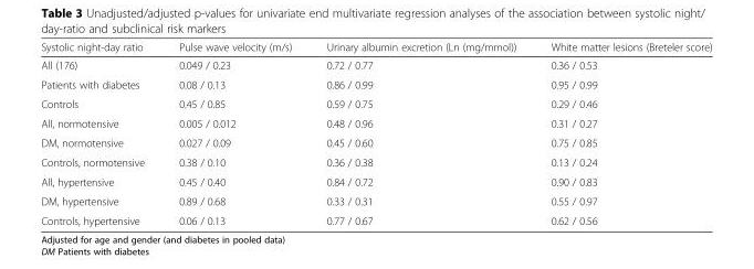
<table><thead><tr><td>Systolic night-day ratio</td><td>Pulse wave velocity (m/s)</td><td>Urinary albumin excretion (Ln (mg/mmol))</td><td>White matter lesions (Breteler score)</td></tr></thead><tbody><tr><td>All (176)</td><td>0.049 / 0.23</td><td>0.72 / 0.77</td><td>0.36 / 0.53</td></tr><tr><td>Patients with diabetes</td><td>0.08 / 0.13</td><td>0.86 / 0.99</td><td>0.95 / 0.99</td></tr><tr><td>Controls</td><td>0.45 / 0.85</td><td>0.59 / 0.75</td><td>0.29 / 0.46</td></tr><tr><td>All, normotensive</td><td>0.005 / 0.012</td><td>0.48 / 0.96</td><td>0.31 / 0.27</td></tr><tr><td>DM, normotensive</td><td>0.027 / 0.09</td><td>0.45 / 0.60</td><td>0.75 / 0.85</td></tr><tr><td>Controls, normotensive</td><td>0.38 / 0.10</td><td>0.36 / 0.38</td><td>0.13 / 0.24</td></tr><tr><td>All, hypertensive</td><td>0.45 / 0.40</td><td>0.84 / 0.72</td><td>0.90 / 0.83</td></tr><tr><td>DM, hypertensive</td><td>0.89 / 0.68</td><td>0.33 / 0.31</td><td>0.55 / 0.97</td></tr><tr><td>Controls, hypertensive</td><td>0.06 / 0.13</td><td>0.77 / 0.67</td><td>0.62 / 0.56</td></tr></tbody></table>